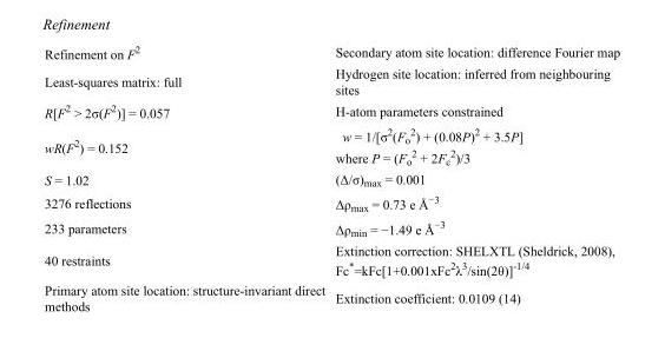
<table><tbody><tr><td>Refinement on F<sup>2</sup></td><td>Secondary atom site location: difference Fourier map</td></tr><tr><td>Least-squares matrix: full</td><td>Hydrogen site location: inferred from neighbouring sites</td></tr><tr><td>R[F<sup>2</sup> &gt; 2σ(F<sup>2</sup>)] = 0.057</td><td>H-atom parameters constrained</td></tr><tr><td>wR(F<sup>2</sup>) = 0.152</td><td>w = 1/[σ<sup>2</sup>(F<sub>o</sub> <sup>2</sup>) + (0.08P)<sup>2</sup> + 3.5P] where P = (F<sub>o</sub> <sup>2</sup> + 2F<sub>c</sub> <sup>2</sup>)/3</td></tr><tr><td>S = 1.02</td><td>(Δ/σ)<sub>max</sub> = 0.001</td></tr><tr><td>3276 reflections</td><td>Δρ<sub>max</sub> = 0.73 e Å<sup>−3</sup></td></tr><tr><td>233 parameters</td><td>Δρ<sub>min</sub> = −1.49 e Å<sup>−3</sup></td></tr><tr><td>40 restraints</td><td>Extinction correction: SHELXTL (Sheldrick, 2008), Fc*=kFc[1+0.001xFc<sup>2</sup>λ<sup>3</sup>/sin(2θ)]<sup>-1/4</sup></td></tr><tr><td>Primary atom site location: structure-invariant direct methods</td><td>Extinction coefficient: 0.0109 (14)</td></tr></tbody></table>